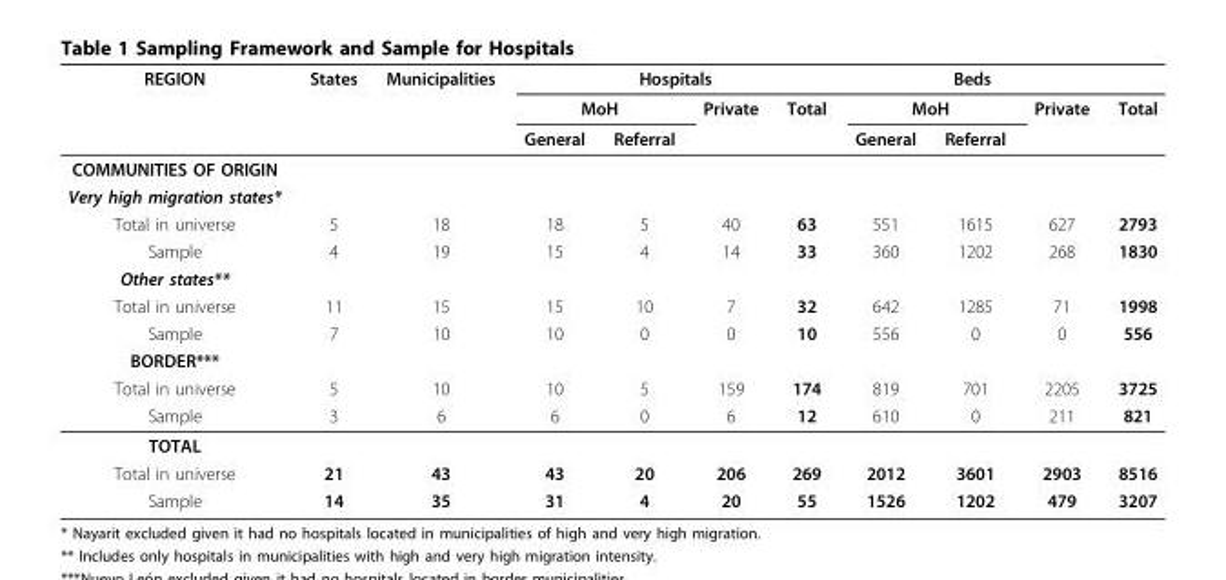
<table><thead><tr><td rowspan="3">REGION</td><td rowspan="3">States</td><td rowspan="3">Municipalities</td><td colspan="4">Hospitals</td><td colspan="3">Beds</td><td rowspan="3">Total</td></tr><tr><td colspan="2">MoH</td><td rowspan="2">Private</td><td rowspan="2">Total</td><td colspan="2">MoH</td><td rowspan="2">Private</td></tr><tr><td>General</td><td>Referral</td><td>General</td><td>Referral</td></tr></thead><tbody><tr><td colspan="11">COMMUNITIES OF ORIGIN</td></tr><tr><td colspan="11">Very high migration states*</td></tr><tr><td>Total in universe</td><td>5</td><td>18</td><td>18</td><td>5</td><td>40</td><td>63</td><td>551</td><td>1615</td><td>627</td><td>2793</td></tr><tr><td>Sample</td><td>4</td><td>19</td><td>15</td><td>4</td><td>14</td><td>33</td><td>360</td><td>1202</td><td>268</td><td>1830</td></tr><tr><td colspan="11">Other states**</td></tr><tr><td>Total in universe</td><td>11</td><td>15</td><td>15</td><td>10</td><td>7</td><td>32</td><td>642</td><td>1285</td><td>71</td><td>1998</td></tr><tr><td>Sample</td><td>7</td><td>10</td><td>10</td><td>0</td><td>0</td><td>10</td><td>556</td><td>0</td><td>0</td><td>556</td></tr><tr><td colspan="11">BORDER***</td></tr><tr><td>Total in universe</td><td>5</td><td>10</td><td>10</td><td>5</td><td>159</td><td>174</td><td>819</td><td>701</td><td>2205</td><td>3725</td></tr><tr><td>Sample</td><td>3</td><td>6</td><td>6</td><td>0</td><td>6</td><td>12</td><td>610</td><td>0</td><td>211</td><td>821</td></tr><tr><td colspan="11">TOTAL</td></tr><tr><td>Total in universe</td><td>21</td><td>43</td><td>43</td><td>20</td><td>206</td><td>269</td><td>2012</td><td>3601</td><td>2903</td><td>8516</td></tr><tr><td>Sample</td><td>14</td><td>35</td><td>31</td><td>4</td><td>20</td><td>55</td><td>1526</td><td>1202</td><td>479</td><td>3207</td></tr></tbody></table>